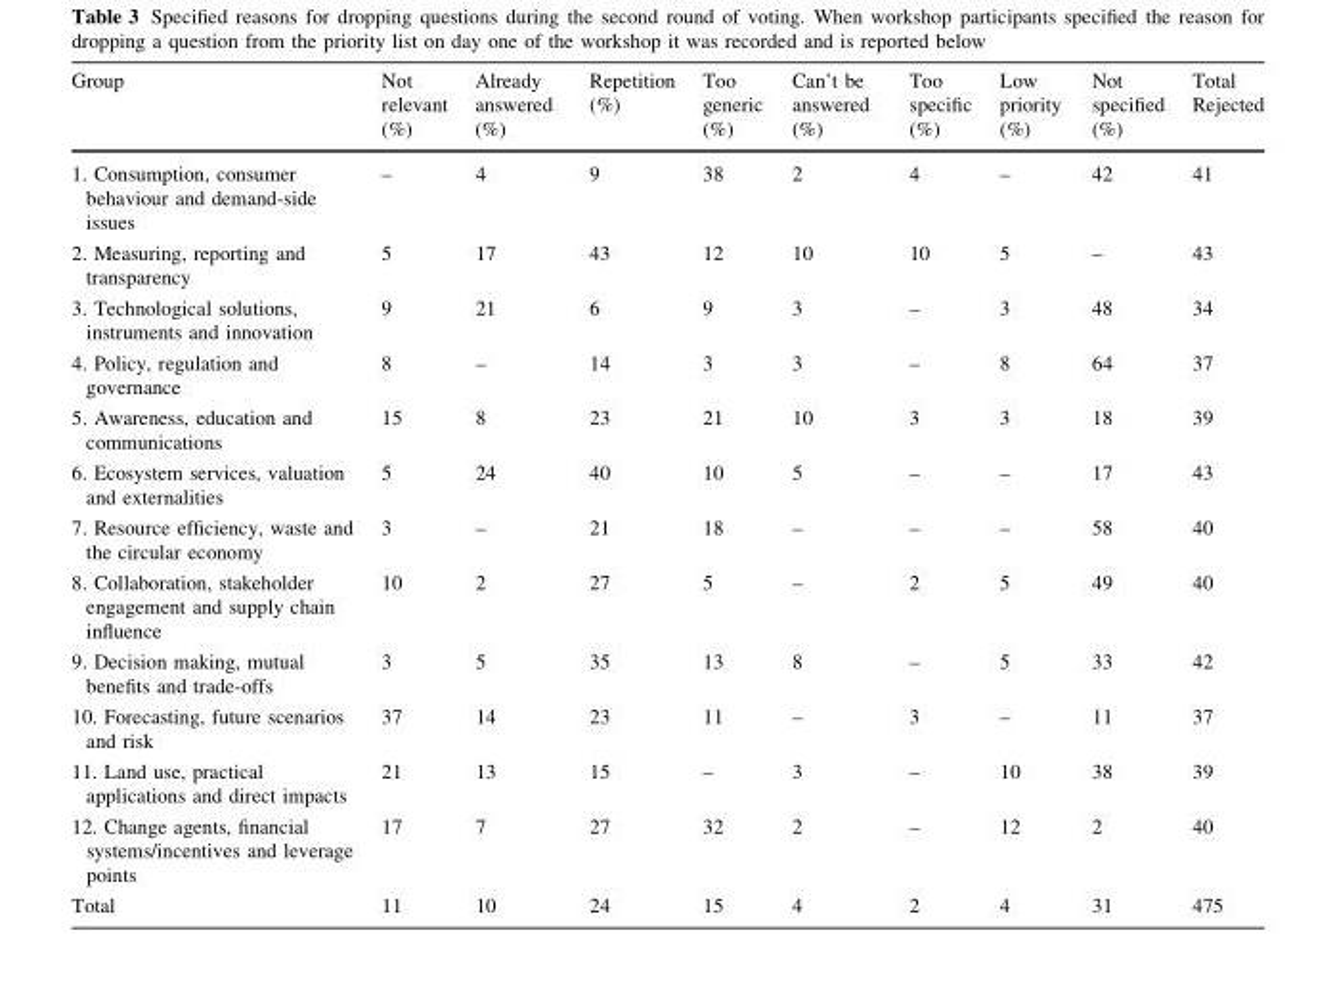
<table><thead><tr><td>Group</td><td>Not relevant (%)</td><td>Already answered (%)</td><td>Repetition (%)</td><td>Too generic (%)</td><td>Can’t be answered (%)</td><td>Too specific (%)</td><td>Low priority (%)</td><td>Not specified (%)</td><td>Total Rejected</td></tr></thead><tbody><tr><td>1. Consumption, consumer behaviour and demand-side issues</td><td>–</td><td>4</td><td>9</td><td>38</td><td>2</td><td>4</td><td>–</td><td>42</td><td>41</td></tr><tr><td>2. Measuring, reporting and transparency</td><td>5</td><td>17</td><td>43</td><td>12</td><td>10</td><td>10</td><td>5</td><td>–</td><td>43</td></tr><tr><td>3. Technological solutions, instruments and innovation</td><td>9</td><td>21</td><td>6</td><td>9</td><td>3</td><td>–</td><td>3</td><td>48</td><td>34</td></tr><tr><td>4. Policy, regulation and governance</td><td>8</td><td>–</td><td>14</td><td>3</td><td>3</td><td>–</td><td>8</td><td>64</td><td>37</td></tr><tr><td>5. Awareness, education and communications</td><td>15</td><td>8</td><td>23</td><td>21</td><td>10</td><td>3</td><td>3</td><td>18</td><td>39</td></tr><tr><td>6. Ecosystem services, valuation and externalities</td><td>5</td><td>24</td><td>40</td><td>10</td><td>5</td><td>–</td><td>–</td><td>17</td><td>43</td></tr><tr><td>7. Resource efficiency, waste and the circular economy</td><td>3</td><td>–</td><td>21</td><td>18</td><td>–</td><td>–</td><td>–</td><td>58</td><td>40</td></tr><tr><td>8. Collaboration, stakeholder engagement and supply chain influence</td><td>10</td><td>2</td><td>27</td><td>5</td><td>–</td><td>2</td><td>5</td><td>49</td><td>40</td></tr><tr><td>9. Decision making, mutual benefits and trade-offs</td><td>3</td><td>5</td><td>35</td><td>13</td><td>8</td><td>–</td><td>5</td><td>33</td><td>42</td></tr><tr><td>10. Forecasting, future scenarios and risk</td><td>37</td><td>14</td><td>23</td><td>11</td><td>–</td><td>3</td><td>–</td><td>11</td><td>37</td></tr><tr><td>11. Land use, practical applications and direct impacts</td><td>21</td><td>13</td><td>15</td><td>–</td><td>3</td><td>–</td><td>10</td><td>38</td><td>39</td></tr><tr><td>12. Change agents, financial systems/incentives and leverage points</td><td>17</td><td>7</td><td>27</td><td>32</td><td>2</td><td>–</td><td>12</td><td>2</td><td>40</td></tr><tr><td>Total</td><td>11</td><td>10</td><td>24</td><td>15</td><td>4</td><td>2</td><td>4</td><td>31</td><td>475</td></tr></tbody></table>